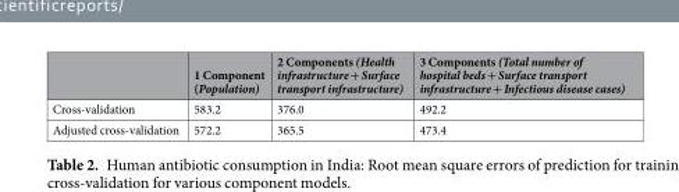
<table><thead><tr><td></td><td>1 Component (Population)</td><td>2 Components (Health infrastructure + Surface transport infrastructure)</td><td>3 Components (Total number of hospital beds + Surface transport infrastructure + Infectious disease cases)</td></tr></thead><tbody><tr><td>Cross-validation</td><td>583.2</td><td>376.0</td><td>492.2</td></tr><tr><td>Adjusted cross-validation</td><td>572.2</td><td>365.5</td><td>473.4</td></tr></tbody></table>